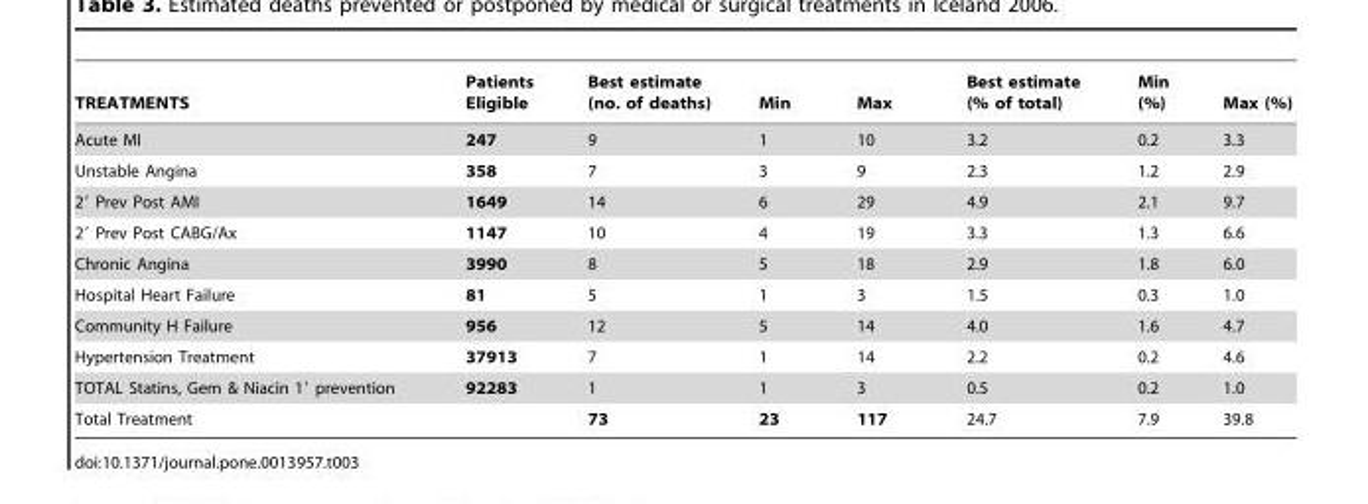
<table><thead><tr><td>TREATMENTS</td><td>Patients Eligible</td><td>Best estimate (no. of deaths)</td><td>Min</td><td>Max</td><td>Best estimate (% of total)</td><td>Min (%)</td><td>Max (%)</td></tr></thead><tbody><tr><td>Acute MI</td><td>247</td><td>9</td><td>1</td><td>10</td><td>3.2</td><td>0.2</td><td>3.3</td></tr><tr><td>Unstable Angina</td><td>358</td><td>7</td><td>3</td><td>9</td><td>2.3</td><td>1.2</td><td>2.9</td></tr><tr><td>2′ Prev Post AMI</td><td>1649</td><td>14</td><td>6</td><td>29</td><td>4.9</td><td>2.1</td><td>9.7</td></tr><tr><td>2′ Prev Post CABG/Ax</td><td>1147</td><td>10</td><td>4</td><td>19</td><td>3.3</td><td>1.3</td><td>6.6</td></tr><tr><td>Chronic Angina</td><td>3990</td><td>8</td><td>5</td><td>18</td><td>2.9</td><td>1.8</td><td>6.0</td></tr><tr><td>Hospital Heart Failure</td><td>81</td><td>5</td><td>1</td><td>3</td><td>1.5</td><td>0.3</td><td>1.0</td></tr><tr><td>Community H Failure</td><td>956</td><td>12</td><td>5</td><td>14</td><td>4.0</td><td>1.6</td><td>4.7</td></tr><tr><td>Hypertension Treatment</td><td>37913</td><td>7</td><td>1</td><td>14</td><td>2.2</td><td>0.2</td><td>4.6</td></tr><tr><td>TOTAL Statins, Gem &amp; Niacin 1′ prevention</td><td>92283</td><td>1</td><td>1</td><td>3</td><td>0.5</td><td>0.2</td><td>1.0</td></tr><tr><td>Total Treatment</td><td></td><td>73</td><td>23</td><td>117</td><td>24.7</td><td>7.9</td><td>39.8</td></tr></tbody></table>